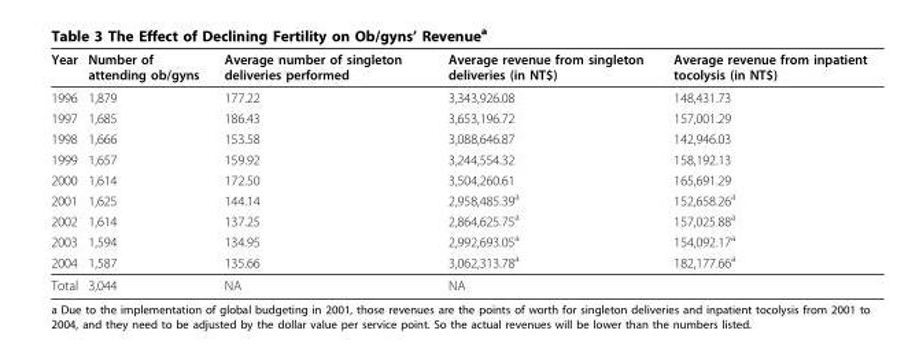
<table><thead><tr><td>Year</td><td>Number of attending ob/gyns</td><td>Average number of singleton deliveries performed</td><td>Average revenue from singleton deliveries (in NT$)</td><td>Average revenue from inpatient tocolysis (in NT$)</td></tr></thead><tbody><tr><td>1996</td><td>1,879</td><td>177.22</td><td>3,343,926.08</td><td>148,431.73</td></tr><tr><td>1997</td><td>1,685</td><td>186.43</td><td>3,653,196.72</td><td>157,001.29</td></tr><tr><td>1998</td><td>1,666</td><td>153.58</td><td>3,088,646.87</td><td>142,946.03</td></tr><tr><td>1999</td><td>1,657</td><td>159.92</td><td>3,244,554.32</td><td>158,192.13</td></tr><tr><td>2000</td><td>1,614</td><td>172.50</td><td>3,504,260.61</td><td>165,691.29</td></tr><tr><td>2001</td><td>1,625</td><td>144.14</td><td>2,958,485.39<sup>a</sup></td><td>152,658.26<sup>a</sup></td></tr><tr><td>2002</td><td>1,614</td><td>137.25</td><td>2,864,625.75<sup>a</sup></td><td>157,025.88<sup>a</sup></td></tr><tr><td>2003</td><td>1,594</td><td>134.95</td><td>2,992,693.05<sup>a</sup></td><td>154,092.17<sup>a</sup></td></tr><tr><td>2004</td><td>1,587</td><td>135.66</td><td>3,062,313.78<sup>a</sup></td><td>182,177.66<sup>a</sup></td></tr><tr><td>Total</td><td>3,044</td><td>NA</td><td>NA</td><td></td></tr></tbody></table>